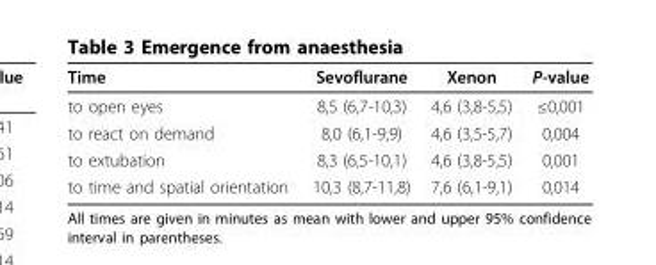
<table><thead><tr><td>Time</td><td>Sevoflurane</td><td>Xenon</td><td>P-value</td></tr></thead><tbody><tr><td>to open eyes</td><td>8,5 (6,7-10,3)</td><td>4,6 (3,8-5,5)</td><td>≤0,001</td></tr><tr><td>to react on demand</td><td>8,0 (6,1-9,9)</td><td>4,6 (3,5-5,7)</td><td>0,004</td></tr><tr><td>to extubation</td><td>8,3 (6,5-10,1)</td><td>4,6 (3,8-5,5)</td><td>0,001</td></tr><tr><td>to time and spatial orientation</td><td>10,3 (8,7-11,8)</td><td>7,6 (6,1-9,1)</td><td>0,014</td></tr></tbody></table>